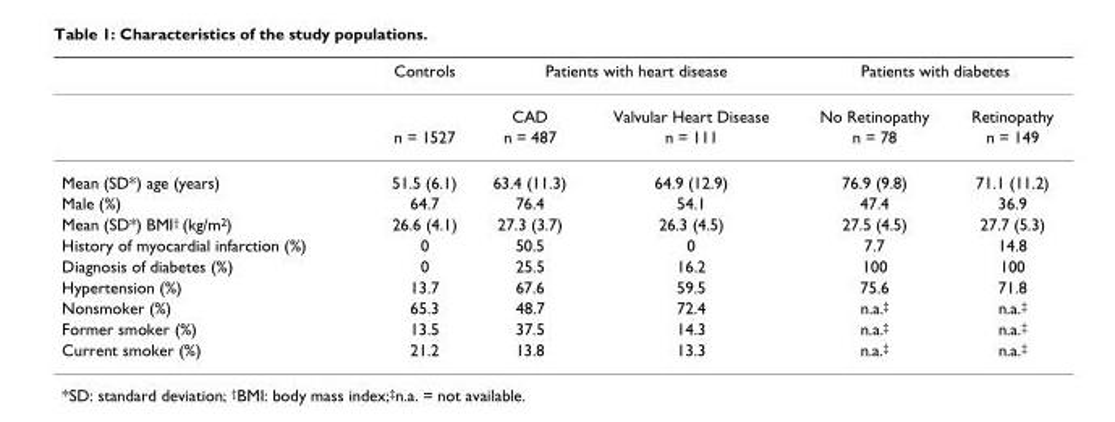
<table><thead><tr><td rowspan="2"></td><td rowspan="2">Controls</td><td colspan="2">Patients with heart disease</td><td colspan="2">Patients with diabetes</td></tr><tr><td>CAD</td><td>Valvular Heart Disease</td><td>No Retinopathy</td><td>Retinopathy</td></tr></thead><tbody><tr><td></td><td>n = 1527</td><td>n = 487</td><td>n = 111</td><td>n = 78</td><td>n = 149</td></tr><tr><td>Mean (SD*) age (years)</td><td>51.5 (6.1)</td><td>63.4 (11.3)</td><td>64.9 (12.9)</td><td>76.9 (9.8)</td><td>71.1 (11.2)</td></tr><tr><td>Male (%)</td><td>64.7</td><td>76.4</td><td>54.1</td><td>47.4</td><td>36.9</td></tr><tr><td>Mean (SD*) BMI<sup>†</sup> (kg/m<sup>2</sup>)</td><td>26.6 (4.1)</td><td>27.3 (3.7)</td><td>26.3 (4.5)</td><td>27.5 (4.5)</td><td>27.7 (5.3)</td></tr><tr><td>History of myocardial infarction (%)</td><td>0</td><td>50.5</td><td>0</td><td>7.7</td><td>14.8</td></tr><tr><td>Diagnosis of diabetes (%)</td><td>0</td><td>25.5</td><td>16.2</td><td>100</td><td>100</td></tr><tr><td>Hypertension (%)</td><td>13.7</td><td>67.6</td><td>59.5</td><td>75.6</td><td>71.8</td></tr><tr><td>Nonsmoker (%)</td><td>65.3</td><td>48.7</td><td>72.4</td><td>n.a.<sup>‡</sup></td><td>n.a.<sup>‡</sup></td></tr><tr><td>Former smoker (%)</td><td>13.5</td><td>37.5</td><td>14.3</td><td>n.a.<sup>‡</sup></td><td>n.a.<sup>‡</sup></td></tr><tr><td>Current smoker (%)</td><td>21.2</td><td>13.8</td><td>13.3</td><td>n.a.<sup>‡</sup></td><td>n.a.<sup>‡</sup></td></tr></tbody></table>